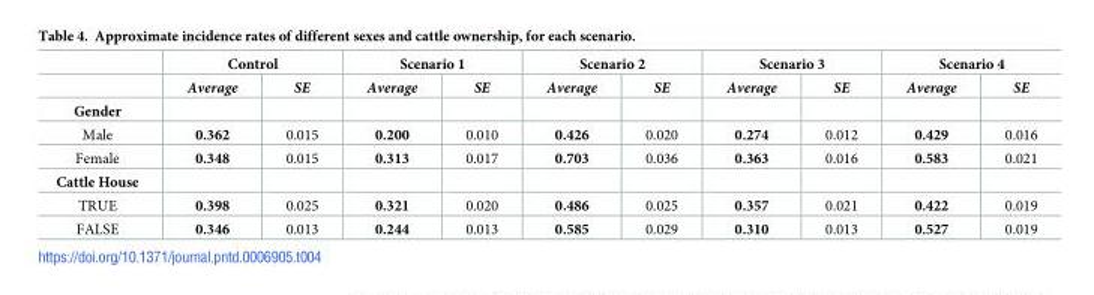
<table><thead><tr><td rowspan="2"></td><td colspan="2">Control</td><td colspan="2">Scenario 1</td><td colspan="2">Scenario 2</td><td colspan="2">Scenario 3</td><td colspan="2">Scenario 4</td></tr><tr><td>Average</td><td>SE</td><td>Average</td><td>SE</td><td>Average</td><td>SE</td><td>Average</td><td>SE</td><td>Average</td><td>SE</td></tr></thead><tbody><tr><td colspan="11">Gender</td></tr><tr><td>Male</td><td>0.362</td><td>0.015</td><td>0.200</td><td>0.010</td><td>0.426</td><td>0.020</td><td>0.274</td><td>0.012</td><td>0.429</td><td>0.016</td></tr><tr><td>Female</td><td>0.348</td><td>0.015</td><td>0.313</td><td>0.017</td><td>0.703</td><td>0.036</td><td>0.363</td><td>0.016</td><td>0.583</td><td>0.021</td></tr><tr><td colspan="11">Cattle House</td></tr><tr><td>TRUE</td><td>0.398</td><td>0.025</td><td>0.321</td><td>0.020</td><td>0.486</td><td>0.025</td><td>0.357</td><td>0.021</td><td>0.422</td><td>0.019</td></tr><tr><td>FALSE</td><td>0.346</td><td>0.013</td><td>0.244</td><td>0.013</td><td>0.585</td><td>0.029</td><td>0.310</td><td>0.013</td><td>0.527</td><td>0.019</td></tr></tbody></table>